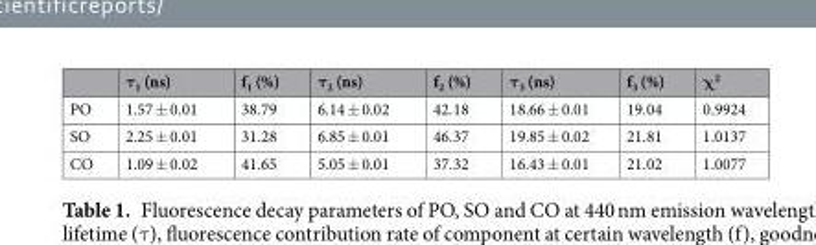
<table><thead><tr><td></td><td>τ<sub>1</sub> (ns)</td><td>f<sub>1</sub> (%)</td><td>τ<sub>2</sub> (ns)</td><td>f<sub>2</sub> (%)</td><td>τ<sub>3</sub> (ns)</td><td>f<sub>3</sub> (%)</td><td>χ<sup>2</sup></td></tr></thead><tbody><tr><td>PO</td><td>1.57 ± 0.01</td><td>38.79</td><td>6.14 ± 0.02</td><td>42.18</td><td>18.66 ± 0.01</td><td>19.04</td><td>0.9924</td></tr><tr><td>SO</td><td>2.25 ± 0.01</td><td>31.28</td><td>6.85 ± 0.01</td><td>46.37</td><td>19.85 ± 0.02</td><td>21.81</td><td>1.0137</td></tr><tr><td>CO</td><td>1.09 ± 0.02</td><td>41.65</td><td>5.05 ± 0.01</td><td>37.32</td><td>16.43 ± 0.01</td><td>21.02</td><td>1.0077</td></tr></tbody></table>